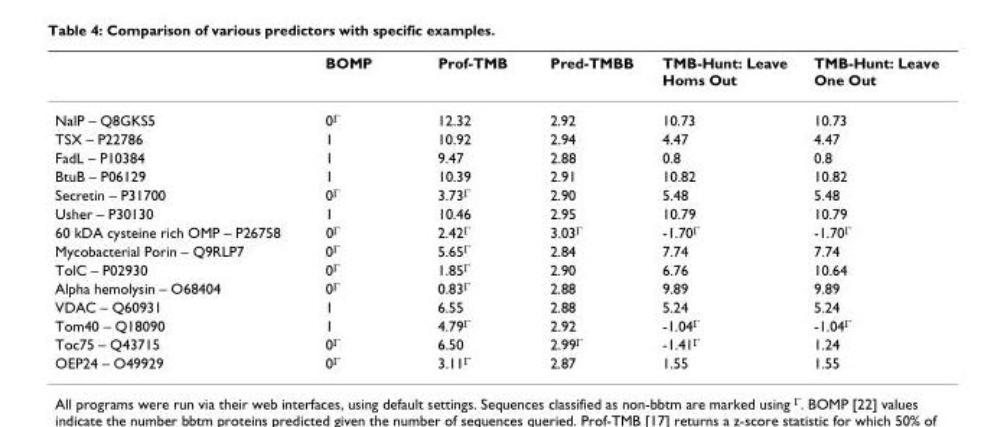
<table><thead><tr><td></td><td>BOMP</td><td>Prof-TMB</td><td>Pred-TMBB</td><td>TMB-Hunt: Leave Homs Out</td><td>TMB-Hunt: Leave One Out</td></tr></thead><tbody><tr><td>NalP – Q8GKS5</td><td>0Γ</td><td>12.32</td><td>2.92</td><td>10.73</td><td>10.73</td></tr><tr><td>TSX – P22786</td><td>1</td><td>10.92</td><td>2.94</td><td>4.47</td><td>4.47</td></tr><tr><td>FadL – P10384</td><td>1</td><td>9.47</td><td>2.88</td><td>0.8</td><td>0.8</td></tr><tr><td>BtuB – P06129</td><td>1</td><td>10.39</td><td>2.91</td><td>10.82</td><td>10.82</td></tr><tr><td>Secretin – P31700</td><td>0Γ</td><td>3.73Γ</td><td>2.90</td><td>5.48</td><td>5.48</td></tr><tr><td>Usher – P30130</td><td>1</td><td>10.46</td><td>2.95</td><td>10.79</td><td>10.79</td></tr><tr><td>60 kDA cysteine rich OMP – P26758</td><td>0Γ</td><td>2.42Γ</td><td>3.03Γ</td><td>-1.70Γ</td><td>-1.70Γ</td></tr><tr><td>Mycobacterial Porin – Q9RLP7</td><td>0Γ</td><td>5.65Γ</td><td>2.84</td><td>7.74</td><td>7.74</td></tr><tr><td>TolC – P02930</td><td>0Γ</td><td>1.85Γ</td><td>2.90</td><td>6.76</td><td>10.64</td></tr><tr><td>Alpha hemolysin – O68404</td><td>0Γ</td><td>0.83Γ</td><td>2.88</td><td>9.89</td><td>9.89</td></tr><tr><td>VDAC – Q60931</td><td>1</td><td>6.55</td><td>2.88</td><td>5.24</td><td>5.24</td></tr><tr><td>Tom40 – Q18090</td><td>1</td><td>4.79Γ</td><td>2.92</td><td>-1.04Γ</td><td>-1.04Γ</td></tr><tr><td>Toc75 – Q43715</td><td>0Γ</td><td>6.50</td><td>2.99Γ</td><td>-1.41Γ</td><td>1.24</td></tr><tr><td>OEP24 – O49929</td><td>0Γ</td><td>3.11Γ</td><td>2.87</td><td>1.55</td><td>1.55</td></tr></tbody></table>